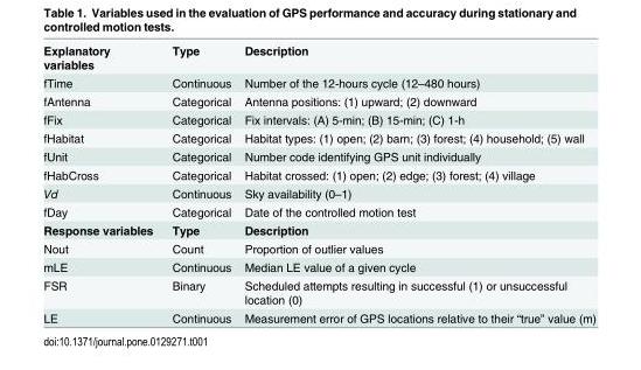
<table><tbody><tr><td>Explanatory variables</td><td>Type</td><td>Description</td></tr><tr><td>fTime</td><td>Continuous</td><td>Number of the 12-hours cycle (12–480 hours)</td></tr><tr><td>fAntenna</td><td>Categorical</td><td>Antenna positions: (1) upward; (2) downward</td></tr><tr><td>fFix</td><td>Categorical</td><td>Fix intervals: (A) 5-min; (B) 15-min; (C) 1-h</td></tr><tr><td>fHabitat</td><td>Categorical</td><td>Habitat types: (1) open; (2) barn; (3) forest; (4) household; (5) wall</td></tr><tr><td>fUnit</td><td>Categorical</td><td>Number code identifying GPS unit individually</td></tr><tr><td>fHabCross</td><td>Categorical</td><td>Habitat crossed: (1) open; (2) edge; (3) forest; (4) village</td></tr><tr><td>Vd</td><td>Continuous</td><td>Sky availability (0–1)</td></tr><tr><td>fDay</td><td>Categorical</td><td>Date of the controlled motion test</td></tr><tr><td>Response variables</td><td>Type</td><td>Description</td></tr><tr><td>Nout</td><td>Count</td><td>Proportion of outlier values</td></tr><tr><td>mLE</td><td>Continuous</td><td>Median LE value of a given cycle</td></tr><tr><td>FSR</td><td>Binary</td><td>Scheduled attempts resulting in successful (1) or unsuccessful location (0)</td></tr><tr><td>LE</td><td>Continuous</td><td>Measurement error of GPS locations relative to their “true” value (m)</td></tr></tbody></table>